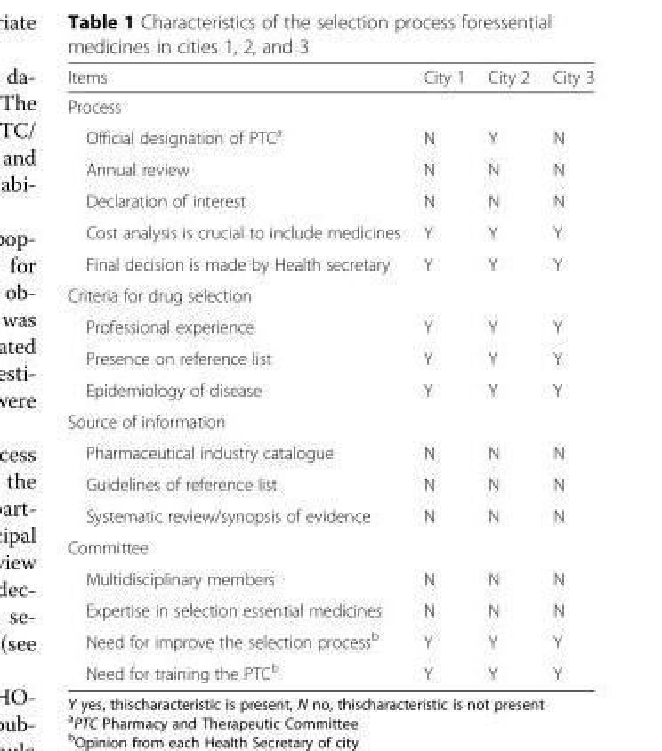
<table><thead><tr><td>Items</td><td>City 1</td><td>City 2</td><td>City 3</td></tr></thead><tbody><tr><td colspan="4">Process</td></tr><tr><td>Official designation of PTC<sup>a</sup></td><td>N</td><td>Y</td><td>N</td></tr><tr><td>Annual review</td><td>N</td><td>N</td><td>N</td></tr><tr><td>Declaration of interest</td><td>N</td><td>N</td><td>N</td></tr><tr><td>Cost analysis is crucial to include medicines</td><td>Y</td><td>Y</td><td>Y</td></tr><tr><td>Final decision is made by Health secretary</td><td>Y</td><td>Y</td><td>Y</td></tr><tr><td colspan="4">Criteria for drug selection</td></tr><tr><td>Professional experience</td><td>Y</td><td>Y</td><td>Y</td></tr><tr><td>Presence on reference list</td><td>Y</td><td>Y</td><td>Y</td></tr><tr><td>Epidemiology of disease</td><td>Y</td><td>Y</td><td>Y</td></tr><tr><td colspan="4">Source of information</td></tr><tr><td>Pharmaceutical industry catalogue</td><td>N</td><td>N</td><td>N</td></tr><tr><td>Guidelines of reference list</td><td>N</td><td>N</td><td>N</td></tr><tr><td>Systematic review/synopsis of evidence</td><td>N</td><td>N</td><td>N</td></tr><tr><td colspan="4">Committee</td></tr><tr><td>Multidisciplinary members</td><td>N</td><td>N</td><td>N</td></tr><tr><td>Expertise in selection essential medicines</td><td>N</td><td>N</td><td>N</td></tr><tr><td>Need for improve the selection process<sup>b</sup></td><td>Y</td><td>Y</td><td>Y</td></tr><tr><td>Need for training the PTC<sup>b</sup></td><td>Y</td><td>Y</td><td>Y</td></tr></tbody></table>